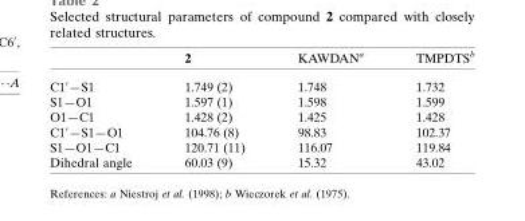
<table><thead><tr><td></td><td>2</td><td>KAWDAN<sup>a</sup></td><td>TMPDTS<sup>b</sup></td></tr></thead><tbody><tr><td>C1′—S1</td><td>1.749 (2)</td><td>1.748</td><td>1.732</td></tr><tr><td>S1—O1</td><td>1.597 (1)</td><td>1.598</td><td>1.599</td></tr><tr><td>O1—C1</td><td>1.428 (2)</td><td>1.425</td><td>1.428</td></tr><tr><td>C1′—S1—O1</td><td>104.76 (8)</td><td>98.83</td><td>102.37</td></tr><tr><td>S1—O1—C1</td><td>120.71 (11)</td><td>116.07</td><td>119.84</td></tr><tr><td>Dihedral angle</td><td>60.03 (9)</td><td>15.32</td><td>43.02</td></tr></tbody></table>